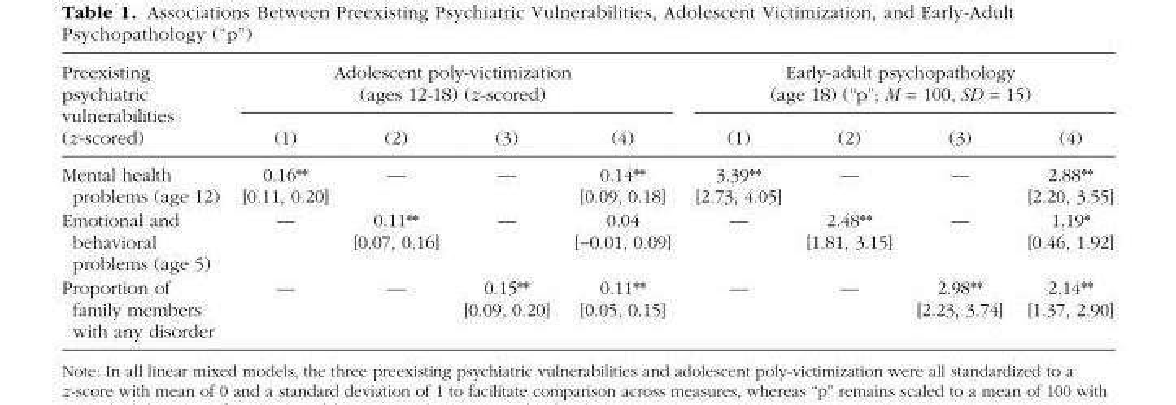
<table><thead><tr><td rowspan="2">Preexisting psychiatric vulnerabilities (z-scored)</td><td colspan="4">Adolescent poly-victimization (ages 12-18) (z-scored)</td><td colspan="4">Early-adult psychopathology (age 18) (“p”; M = 100, SD = 15)</td></tr><tr><td>(1)</td><td>(2)</td><td>(3)</td><td>(4)</td><td>(1)</td><td>(2)</td><td>(3)</td><td>(4)</td></tr></thead><tbody><tr><td>Mental health problems (age 12)</td><td>0.16** [0.11, 0.20]</td><td>—</td><td>—</td><td>0.14** [0.09, 0.18]</td><td>3.39** [2.73, 4.05]</td><td>—</td><td>—</td><td>2.88** [2.20, 3.55]</td></tr><tr><td>Emotional and behavioral problems (age 5)</td><td>—</td><td>0.11** [0.07, 0.16]</td><td>—</td><td>0.04 [−0.01, 0.09]</td><td>—</td><td>2.48** [1.81, 3.15]</td><td>—</td><td>1.19* [0.46, 1.92]</td></tr><tr><td>Proportion of family members with any disorder</td><td>—</td><td>—</td><td>0.15** [0.09, 0.20]</td><td>0.11** [0.05, 0.15]</td><td>—</td><td>—</td><td>2.98** [2.23, 3.74]</td><td>2.14** [1.37, 2.90]</td></tr></tbody></table>